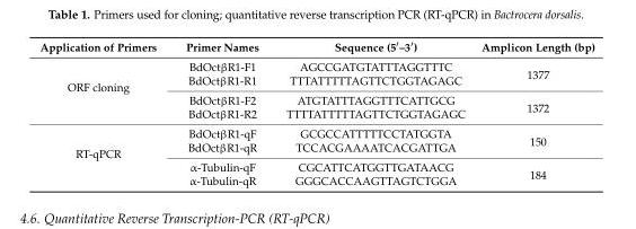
<table><thead><tr><td>Application of Primers</td><td>Primer Names</td><td>Sequence (5′–3′)</td><td>Amplicon Length (bp)</td></tr></thead><tbody><tr><td rowspan="4">ORF cloning</td><td>BdOctβR1-F1</td><td>AGCCGATGTATTTAGGTTTC</td><td rowspan="2">1377</td></tr><tr><td>BdOctβR1-R1</td><td>TTTATTTTTAGTTCTGGTAGAGC</td></tr><tr><td>BdOctβR1-F2</td><td>ATGTATTTAGGTTTCATTGCG</td><td rowspan="2">1372</td></tr><tr><td>BdOctβR1-R2</td><td>TTTTATTTTTAGTTCTGGTAGAGC</td></tr><tr><td rowspan="4">RT-qPCR</td><td>BdOctβR1-qF</td><td>GCGCCATTTTTCCTATGGTA</td><td rowspan="2">150</td></tr><tr><td>BdOctβR1-qR</td><td>TCCACGAAAATCACGATTGA</td></tr><tr><td>α-Tubulin-qF</td><td>CGCATTCATGGTTGATAACG</td><td rowspan="2">184</td></tr><tr><td>α-Tubulin-qR</td><td>GGGCACCAAGTTAGTCTGGA</td></tr></tbody></table>